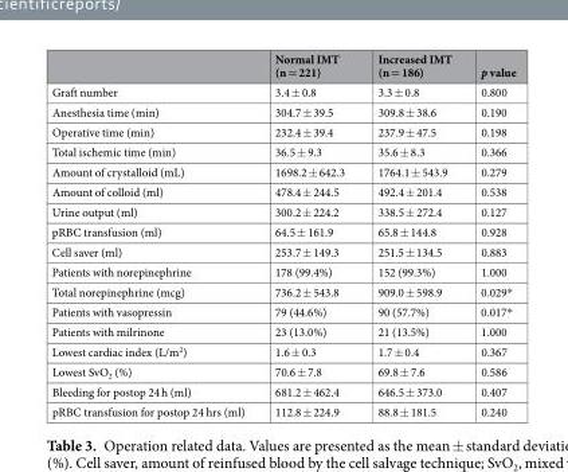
<table><thead><tr><td></td><td>Normal IMT (n = 221)</td><td>Increased IMT (n = 186)</td><td>p value</td></tr></thead><tbody><tr><td>Graft number</td><td>3.4 ± 0.8</td><td>3.3 ± 0.8</td><td>0.800</td></tr><tr><td>Anesthesia time (min)</td><td>304.7 ± 39.5</td><td>309.8 ± 38.6</td><td>0.190</td></tr><tr><td>Operative time (min)</td><td>232.4 ± 39.4</td><td>237.9 ± 47.5</td><td>0.198</td></tr><tr><td>Total ischemic time (min)</td><td>36.5 ± 9.3</td><td>35.6 ± 8.3</td><td>0.366</td></tr><tr><td>Amount of crystalloid (mL)</td><td>1698.2 ± 642.3</td><td>1764.1 ± 543.9</td><td>0.279</td></tr><tr><td>Amount of colloid (ml)</td><td>478.4 ± 244.5</td><td>492.4 ± 201.4</td><td>0.538</td></tr><tr><td>Urine output (ml)</td><td>300.2 ± 224.2</td><td>338.5 ± 272.4</td><td>0.127</td></tr><tr><td>pRBC transfusion (ml)</td><td>64.5 ± 161.9</td><td>65.8 ± 144.8</td><td>0.928</td></tr><tr><td>Cell saver (ml)</td><td>253.7 ± 149.3</td><td>251.5 ± 134.5</td><td>0.883</td></tr><tr><td>Patients with norepinephrine</td><td>178 (99.4%)</td><td>152 (99.3%)</td><td>1.000</td></tr><tr><td>Total norepinephrine (mcg)</td><td>736.2 ± 543.8</td><td>909.0 ± 598.9</td><td>0.029*</td></tr><tr><td>Patients with vasopressin</td><td>79 (44.6%)</td><td>90 (57.7%)</td><td>0.017*</td></tr><tr><td>Patients with milrinone</td><td>23 (13.0%)</td><td>21 (13.5%)</td><td>1.000</td></tr><tr><td>Lowest cardiac index (L/m<sup>2</sup>)</td><td>1.6 ± 0.3</td><td>1.7 ± 0.4</td><td>0.367</td></tr><tr><td>Lowest SvO<sub>2</sub> (%)</td><td>70.6 ± 7.8</td><td>69.8 ± 7.6</td><td>0.586</td></tr><tr><td>Bleeding for postop 24 h (ml)</td><td>681.2 ± 462.4</td><td>646.5 ± 373.0</td><td>0.407</td></tr><tr><td>pRBC transfusion for postop 24 hrs (ml)</td><td>112.8 ± 224.9</td><td>88.8 ± 181.5</td><td>0.240</td></tr></tbody></table>